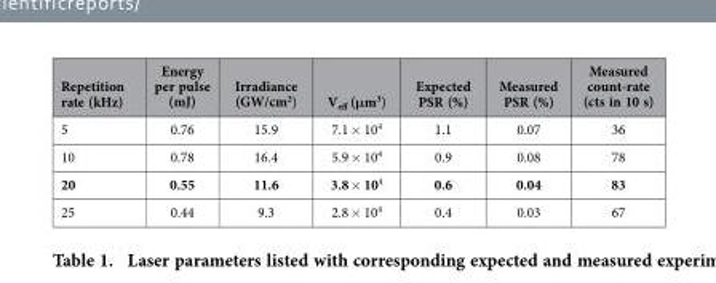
<table><thead><tr><td>Repetition rate (kHz)</td><td>Energy per pulse (mJ)</td><td>Irradiance (GW/cm<sup>2</sup>)</td><td>V<sub>eff</sub> (μm<sup>3</sup>)</td><td>Expected PSR (%)</td><td>Measured PSR (%)</td><td>Measured count-rate (cts in 10 s)</td></tr></thead><tbody><tr><td>5</td><td>0.76</td><td>15.9</td><td>7.1 × 10<sup>4</sup></td><td>1.1</td><td>0.07</td><td>36</td></tr><tr><td>10</td><td>0.78</td><td>16.4</td><td>5.9 × 10<sup>4</sup></td><td>0.9</td><td>0.08</td><td>78</td></tr><tr><td>20</td><td>0.55</td><td>11.6</td><td>3.8 × 10<sup>4</sup></td><td>0.6</td><td>0.04</td><td>83</td></tr><tr><td>25</td><td>0.44</td><td>9.3</td><td>2.8 × 10<sup>4</sup></td><td>0.4</td><td>0.03</td><td>67</td></tr></tbody></table>